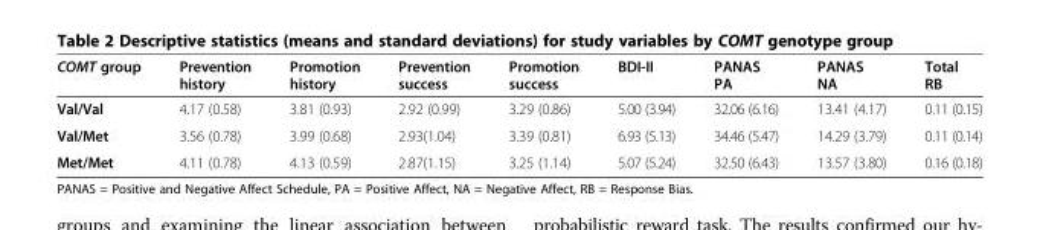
<table><thead><tr><td>COMT group</td><td>Prevention history</td><td>Promotion history</td><td>Prevention success</td><td>Promotion success</td><td>BDI-II</td><td>PANAS PA</td><td>PANAS NA</td><td>Total RB</td></tr></thead><tbody><tr><td>Val/Val</td><td>4.17 (0.58)</td><td>3.81 (0.93)</td><td>2.92 (0.99)</td><td>3.29 (0.86)</td><td>5.00 (3.94)</td><td>32.06 (6.16)</td><td>13.41 (4.17)</td><td>0.11 (0.15)</td></tr><tr><td>Val/Met</td><td>3.56 (0.78)</td><td>3.99 (0.68)</td><td>2.93(1.04)</td><td>3.39 (0.81)</td><td>6.93 (5.13)</td><td>34.46 (5.47)</td><td>14.29 (3.79)</td><td>0.11 (0.14)</td></tr><tr><td>Met/Met</td><td>4.11 (0.78)</td><td>4.13 (0.59)</td><td>2.87(1.15)</td><td>3.25 (1.14)</td><td>5.07 (5.24)</td><td>32.50 (6.43)</td><td>13.57 (3.80)</td><td>0.16 (0.18)</td></tr></tbody></table>